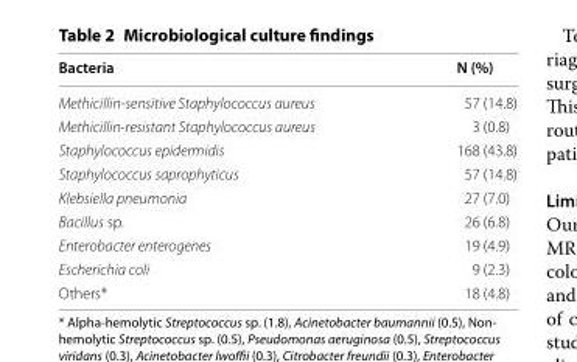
<table><thead><tr><td>Bacteria</td><td>N (%)</td></tr></thead><tbody><tr><td>Methicillin-sensitive Staphylococcus aureus</td><td>57 (14.8)</td></tr><tr><td>Methicillin-resistant Staphylococcus aureus</td><td>3 (0.8)</td></tr><tr><td>Staphylococcus epidermidis</td><td>168 (43.8)</td></tr><tr><td>Staphylococcus saprophyticus</td><td>57 (14.8)</td></tr><tr><td>Klebsiella pneumonia</td><td>27 (7.0)</td></tr><tr><td>Bacillus sp.</td><td>26 (6.8)</td></tr><tr><td>Enterobacter enterogenes</td><td>19 (4.9)</td></tr><tr><td>Escherichia coli</td><td>9 (2.3)</td></tr><tr><td>Others*</td><td>18 (4.8)</td></tr></tbody></table>